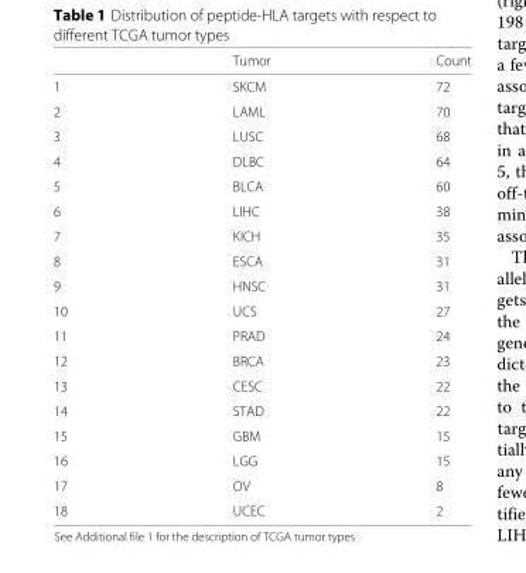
<table><thead><tr><td></td><td>Tumor</td><td>Count</td></tr></thead><tbody><tr><td>1</td><td>SKCM</td><td>72</td></tr><tr><td>2</td><td>LAML</td><td>70</td></tr><tr><td>3</td><td>LUSC</td><td>68</td></tr><tr><td>4</td><td>DLBC</td><td>64</td></tr><tr><td>5</td><td>BLCA</td><td>60</td></tr><tr><td>6</td><td>LIHC</td><td>38</td></tr><tr><td>7</td><td>KICH</td><td>35</td></tr><tr><td>8</td><td>ESCA</td><td>31</td></tr><tr><td>9</td><td>HNSC</td><td>31</td></tr><tr><td>10</td><td>UCS</td><td>27</td></tr><tr><td>11</td><td>PRAD</td><td>24</td></tr><tr><td>12</td><td>BRCA</td><td>23</td></tr><tr><td>13</td><td>CESC</td><td>22</td></tr><tr><td>14</td><td>STAD</td><td>22</td></tr><tr><td>15</td><td>GBM</td><td>15</td></tr><tr><td>16</td><td>LGG</td><td>15</td></tr><tr><td>17</td><td>OV</td><td>8</td></tr><tr><td>18</td><td>UCEC</td><td>2</td></tr></tbody></table>